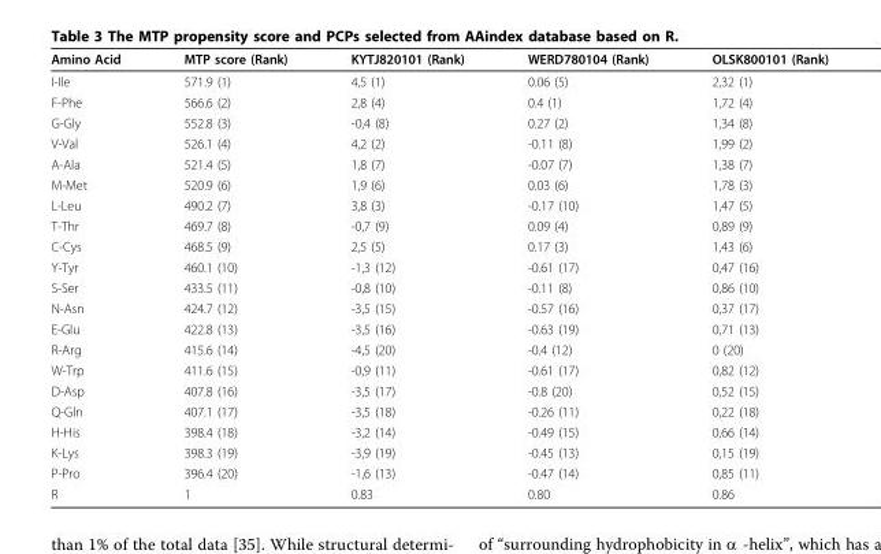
<table><thead><tr><td>Amino Acid</td><td>MTP score (Rank)</td><td>KYTJ820101 (Rank)</td><td>WERD780104 (Rank)</td><td>OLSK800101 (Rank)</td></tr></thead><tbody><tr><td>I-Ile</td><td>571.9 (1)</td><td>4,5 (1)</td><td>0.06 (5)</td><td>2,32 (1)</td></tr><tr><td>F-Phe</td><td>566.6 (2)</td><td>2,8 (4)</td><td>0.4 (1)</td><td>1,72 (4)</td></tr><tr><td>G-Gly</td><td>552.8 (3)</td><td>-0,4 (8)</td><td>0.27 (2)</td><td>1,34 (8)</td></tr><tr><td>V-Val</td><td>526.1 (4)</td><td>4,2 (2)</td><td>-0.11 (8)</td><td>1,99 (2)</td></tr><tr><td>A-Ala</td><td>521.4 (5)</td><td>1,8 (7)</td><td>-0.07 (7)</td><td>1,38 (7)</td></tr><tr><td>M-Met</td><td>520.9 (6)</td><td>1,9 (6)</td><td>0.03 (6)</td><td>1,78 (3)</td></tr><tr><td>L-Leu</td><td>490.2 (7)</td><td>3,8 (3)</td><td>-0.17 (10)</td><td>1,47 (5)</td></tr><tr><td>T-Thr</td><td>469.7 (8)</td><td>-0,7 (9)</td><td>0.09 (4)</td><td>0,89 (9)</td></tr><tr><td>C-Cys</td><td>468.5 (9)</td><td>2,5 (5)</td><td>0.17 (3)</td><td>1,43 (6)</td></tr><tr><td>Y-Tyr</td><td>460.1 (10)</td><td>-1,3 (12)</td><td>-0.61 (17)</td><td>0,47 (16)</td></tr><tr><td>S-Ser</td><td>433.5 (11)</td><td>-0,8 (10)</td><td>-0.11 (8)</td><td>0,86 (10)</td></tr><tr><td>N-Asn</td><td>424.7 (12)</td><td>-3,5 (15)</td><td>-0.57 (16)</td><td>0,37 (17)</td></tr><tr><td>E-Glu</td><td>422.8 (13)</td><td>-3,5 (16)</td><td>-0.63 (19)</td><td>0,71 (13)</td></tr><tr><td>R-Arg</td><td>415.6 (14)</td><td>-4,5 (20)</td><td>-0.4 (12)</td><td>0 (20)</td></tr><tr><td>W-Trp</td><td>411.6 (15)</td><td>-0,9 (11)</td><td>-0.61 (17)</td><td>0,82 (12)</td></tr><tr><td>D-Asp</td><td>407.8 (16)</td><td>-3,5 (17)</td><td>-0.8 (20)</td><td>0,52 (15)</td></tr><tr><td>Q-Gln</td><td>407.1 (17)</td><td>-3,5 (18)</td><td>-0.26 (11)</td><td>0,22 (18)</td></tr><tr><td>H-His</td><td>398.4 (18)</td><td>-3,2 (14)</td><td>-0.49 (15)</td><td>0,66 (14)</td></tr><tr><td>K-Lys</td><td>398.3 (19)</td><td>-3,9 (19)</td><td>-0.45 (13)</td><td>0,15 (19)</td></tr><tr><td>P-Pro</td><td>396.4 (20)</td><td>-1,6 (13)</td><td>-0.47 (14)</td><td>0,85 (11)</td></tr><tr><td>R</td><td>1</td><td>0.83</td><td>0.80</td><td>0.86</td></tr></tbody></table>